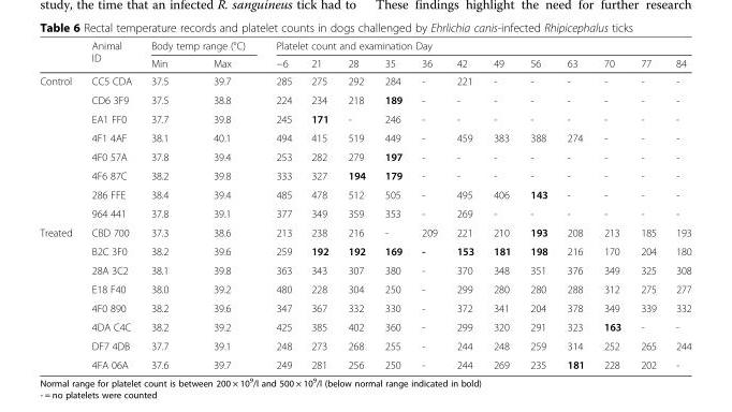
<table><thead><tr><td rowspan="2"></td><td rowspan="2">Animal ID</td><td colspan="2">Body temp range (°C)</td><td colspan="12">Platelet count and examination Day</td></tr><tr><td>Min</td><td>Max</td><td>−6</td><td>21</td><td>28</td><td>35</td><td>36</td><td>42</td><td>49</td><td>56</td><td>63</td><td>70</td><td>77</td><td>84</td></tr></thead><tbody><tr><td rowspan="8">Control</td><td>CC5 CDA</td><td>37.5</td><td>39.7</td><td>285</td><td>275</td><td>292</td><td>284</td><td>-</td><td>221</td><td>-</td><td>-</td><td>-</td><td>-</td><td>-</td><td>-</td></tr><tr><td>CD6 3F9</td><td>37.5</td><td>38.8</td><td>224</td><td>234</td><td>218</td><td>189</td><td>-</td><td>-</td><td>-</td><td>-</td><td>-</td><td>-</td><td>-</td><td>-</td></tr><tr><td>EA1 FF0</td><td>37.7</td><td>39.8</td><td>245</td><td>171</td><td>-</td><td>246</td><td>-</td><td>-</td><td>-</td><td>-</td><td>-</td><td>-</td><td>-</td><td>-</td></tr><tr><td>4F1 4AF</td><td>38.1</td><td>40.1</td><td>494</td><td>415</td><td>519</td><td>449</td><td>-</td><td>459</td><td>383</td><td>388</td><td>274</td><td>-</td><td>-</td><td>-</td></tr><tr><td>4F0 57A</td><td>37.8</td><td>39.4</td><td>253</td><td>282</td><td>279</td><td>197</td><td>-</td><td>-</td><td>-</td><td>-</td><td>-</td><td>-</td><td>-</td><td>-</td></tr><tr><td>4F6 87C</td><td>38.2</td><td>39.8</td><td>333</td><td>327</td><td>194</td><td>179</td><td>-</td><td>-</td><td>-</td><td>-</td><td>-</td><td>-</td><td>-</td><td>-</td></tr><tr><td>286 FFE</td><td>38.4</td><td>39.4</td><td>485</td><td>478</td><td>512</td><td>505</td><td>-</td><td>495</td><td>406</td><td>143</td><td>-</td><td>-</td><td>-</td><td>-</td></tr><tr><td>964 441</td><td>37.8</td><td>39.1</td><td>377</td><td>349</td><td>359</td><td>353</td><td>-</td><td>269</td><td>-</td><td>-</td><td>-</td><td>-</td><td>-</td><td>-</td></tr><tr><td rowspan="8">Treated</td><td>CBD 700</td><td>37.3</td><td>38.6</td><td>213</td><td>238</td><td>216</td><td>-</td><td>209</td><td>221</td><td>210</td><td>193</td><td>208</td><td>213</td><td>185</td><td>193</td></tr><tr><td>B2C 3F0</td><td>38.2</td><td>39.6</td><td>259</td><td>192</td><td>192</td><td>169</td><td>-</td><td>153</td><td>181</td><td>198</td><td>216</td><td>170</td><td>204</td><td>180</td></tr><tr><td>28A 3C2</td><td>38.1</td><td>39.8</td><td>363</td><td>343</td><td>307</td><td>380</td><td>-</td><td>370</td><td>348</td><td>351</td><td>376</td><td>349</td><td>325</td><td>308</td></tr><tr><td>E18 F40</td><td>38.0</td><td>39.2</td><td>480</td><td>228</td><td>304</td><td>250</td><td>-</td><td>299</td><td>280</td><td>280</td><td>288</td><td>312</td><td>275</td><td>277</td></tr><tr><td>4F0 890</td><td>38.2</td><td>39.6</td><td>347</td><td>367</td><td>332</td><td>330</td><td>-</td><td>372</td><td>341</td><td>204</td><td>378</td><td>349</td><td>339</td><td>332</td></tr><tr><td>4DA C4C</td><td>38.2</td><td>39.2</td><td>425</td><td>385</td><td>402</td><td>360</td><td>-</td><td>299</td><td>320</td><td>291</td><td>323</td><td>163</td><td>-</td><td>-</td></tr><tr><td>DF7 4DB</td><td>37.7</td><td>39.1</td><td>248</td><td>273</td><td>268</td><td>255</td><td>-</td><td>244</td><td>248</td><td>259</td><td>314</td><td>252</td><td>265</td><td>244</td></tr><tr><td>4FA 06A</td><td>37.6</td><td>39.7</td><td>249</td><td>281</td><td>256</td><td>250</td><td>-</td><td>244</td><td>269</td><td>235</td><td>181</td><td>228</td><td>202</td><td>-</td></tr></tbody></table>